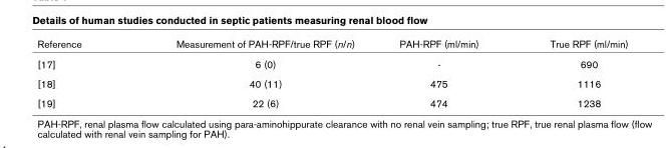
<table><thead><tr><td>Reference</td><td>Measurement of PAH-RPF/true RPF (n/n)</td><td>PAH-RPF (ml/min)</td><td>True RPF (ml/min)</td></tr></thead><tbody><tr><td>[17]</td><td>6 (0)</td><td>-</td><td>690</td></tr><tr><td>[18]</td><td>40 (11)</td><td>475</td><td>1116</td></tr><tr><td>[19]</td><td>22 (6)</td><td>474</td><td>1238</td></tr></tbody></table>